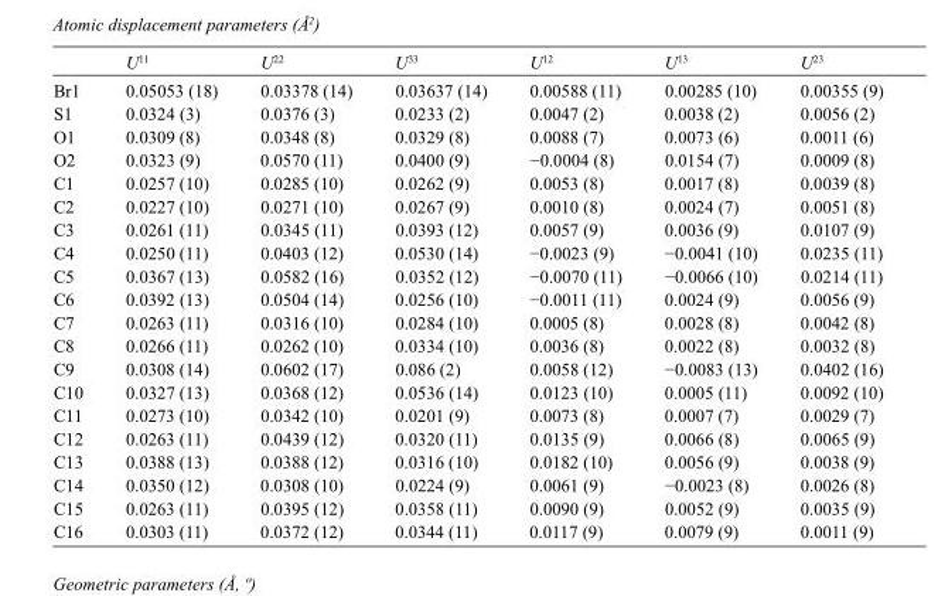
<table><thead><tr><td></td><td>U<sup>11</sup></td><td>U<sup>22</sup></td><td>U<sup>33</sup></td><td>U<sup>12</sup></td><td>U<sup>13</sup></td><td>U<sup>23</sup></td></tr></thead><tbody><tr><td>Br1</td><td>0.05053 (18)</td><td>0.03378 (14)</td><td>0.03637 (14)</td><td>0.00588 (11)</td><td>0.00285 (10)</td><td>0.00355 (9)</td></tr><tr><td>S1</td><td>0.0324 (3)</td><td>0.0376 (3)</td><td>0.0233 (2)</td><td>0.0047 (2)</td><td>0.0038 (2)</td><td>0.0056 (2)</td></tr><tr><td>O1</td><td>0.0309 (8)</td><td>0.0348 (8)</td><td>0.0329 (8)</td><td>0.0088 (7)</td><td>0.0073 (6)</td><td>0.0011 (6)</td></tr><tr><td>O2</td><td>0.0323 (9)</td><td>0.0570 (11)</td><td>0.0400 (9)</td><td>−0.0004 (8)</td><td>0.0154 (7)</td><td>0.0009 (8)</td></tr><tr><td>C1</td><td>0.0257 (10)</td><td>0.0285 (10)</td><td>0.0262 (9)</td><td>0.0053 (8)</td><td>0.0017 (8)</td><td>0.0039 (8)</td></tr><tr><td>C2</td><td>0.0227 (10)</td><td>0.0271 (10)</td><td>0.0267 (9)</td><td>0.0010 (8)</td><td>0.0024 (7)</td><td>0.0051 (8)</td></tr><tr><td>C3</td><td>0.0261 (11)</td><td>0.0345 (11)</td><td>0.0393 (12)</td><td>0.0057 (9)</td><td>0.0036 (9)</td><td>0.0107 (9)</td></tr><tr><td>C4</td><td>0.0250 (11)</td><td>0.0403 (12)</td><td>0.0530 (14)</td><td>−0.0023 (9)</td><td>−0.0041 (10)</td><td>0.0235 (11)</td></tr><tr><td>C5</td><td>0.0367 (13)</td><td>0.0582 (16)</td><td>0.0352 (12)</td><td>−0.0070 (11)</td><td>−0.0066 (10)</td><td>0.0214 (11)</td></tr><tr><td>C6</td><td>0.0392 (13)</td><td>0.0504 (14)</td><td>0.0256 (10)</td><td>−0.0011 (11)</td><td>0.0024 (9)</td><td>0.0056 (9)</td></tr><tr><td>C7</td><td>0.0263 (11)</td><td>0.0316 (10)</td><td>0.0284 (10)</td><td>0.0005 (8)</td><td>0.0028 (8)</td><td>0.0042 (8)</td></tr><tr><td>C8</td><td>0.0266 (11)</td><td>0.0262 (10)</td><td>0.0334 (10)</td><td>0.0036 (8)</td><td>0.0022 (8)</td><td>0.0032 (8)</td></tr><tr><td>C9</td><td>0.0308 (14)</td><td>0.0602 (17)</td><td>0.086 (2)</td><td>0.0058 (12)</td><td>−0.0083 (13)</td><td>0.0402 (16)</td></tr><tr><td>C10</td><td>0.0327 (13)</td><td>0.0368 (12)</td><td>0.0536 (14)</td><td>0.0123 (10)</td><td>0.0005 (11)</td><td>0.0092 (10)</td></tr><tr><td>C11</td><td>0.0273 (10)</td><td>0.0342 (10)</td><td>0.0201 (9)</td><td>0.0073 (8)</td><td>0.0007 (7)</td><td>0.0029 (7)</td></tr><tr><td>C12</td><td>0.0263 (11)</td><td>0.0439 (12)</td><td>0.0320 (11)</td><td>0.0135 (9)</td><td>0.0066 (8)</td><td>0.0065 (9)</td></tr><tr><td>C13</td><td>0.0388 (13)</td><td>0.0388 (12)</td><td>0.0316 (10)</td><td>0.0182 (10)</td><td>0.0056 (9)</td><td>0.0038 (9)</td></tr><tr><td>C14</td><td>0.0350 (12)</td><td>0.0308 (10)</td><td>0.0224 (9)</td><td>0.0061 (9)</td><td>−0.0023 (8)</td><td>0.0026 (8)</td></tr><tr><td>C15</td><td>0.0263 (11)</td><td>0.0395 (12)</td><td>0.0358 (11)</td><td>0.0090 (9)</td><td>0.0052 (9)</td><td>0.0035 (9)</td></tr><tr><td>C16</td><td>0.0303 (11)</td><td>0.0372 (12)</td><td>0.0344 (11)</td><td>0.0117 (9)</td><td>0.0079 (9)</td><td>0.0011 (9)</td></tr></tbody></table>